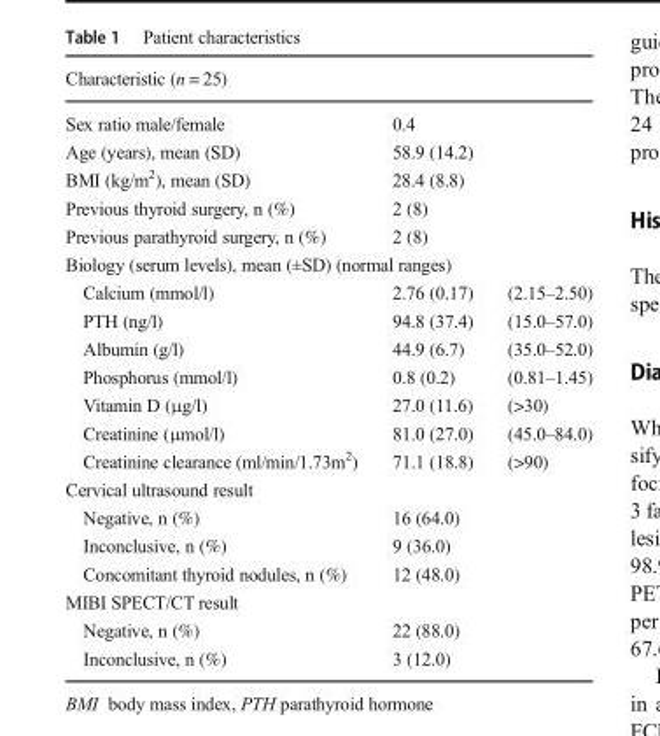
<table><thead><tr><td colspan="3">Characteristic (n = 25)</td></tr><tr><td>Sex ratio male/female</td><td>0.4</td><td></td></tr></thead><tbody><tr><td>Age (years), mean (SD)</td><td>58.9 (14.2)</td><td></td></tr><tr><td>BMI (kg/m<sup>2</sup>), mean (SD)</td><td>28.4 (8.8)</td><td></td></tr><tr><td>Previous thyroid surgery, n (%)</td><td>2 (8)</td><td></td></tr><tr><td>Previous parathyroid surgery, n (%)</td><td>2 (8)</td><td></td></tr><tr><td colspan="3">Biology (serum levels), mean (±SD) (normal ranges)</td></tr><tr><td>Calcium (mmol/l)</td><td>2.76 (0.17)</td><td>(2.15–2.50)</td></tr><tr><td>PTH (ng/l)</td><td>94.8 (37.4)</td><td>(15.0–57.0)</td></tr><tr><td>Albumin (g/l)</td><td>44.9 (6.7)</td><td>(35.0–52.0)</td></tr><tr><td>Phosphorus (mmol/l)</td><td>0.8 (0.2)</td><td>(0.81–1.45)</td></tr><tr><td>Vitamin D (μg/l)</td><td>27.0 (11.6)</td><td>(&gt;30)</td></tr><tr><td>Creatinine (μmol/l)</td><td>81.0 (27.0)</td><td>(45.0–84.0)</td></tr><tr><td>Creatinine clearance (ml/min/1.73m<sup>2</sup>)</td><td>71.1 (18.8)</td><td>(&gt;90)</td></tr><tr><td colspan="3">Cervical ultrasound result</td></tr><tr><td>Negative, n (%)</td><td>16 (64.0)</td><td></td></tr><tr><td>Inconclusive, n (%)</td><td>9 (36.0)</td><td></td></tr><tr><td>Concomitant thyroid nodules, n (%)</td><td>12 (48.0)</td><td></td></tr><tr><td colspan="3">MIBI SPECT/CT result</td></tr><tr><td>Negative, n (%)</td><td>22 (88.0)</td><td></td></tr><tr><td>Inconclusive, n (%)</td><td>3 (12.0)</td><td></td></tr></tbody></table>